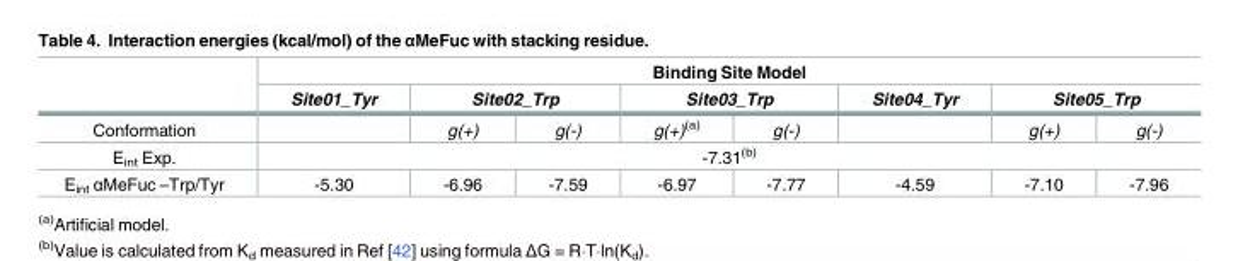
<table><thead><tr><td rowspan="3">Conformation</td><td colspan="8">Binding Site Model</td></tr><tr><td rowspan="2">Site01_Tyr</td><td colspan="2">Site02_Trp</td><td colspan="2">Site03_Trp</td><td rowspan="2">Site04_Tyr</td><td colspan="2">Site05_Trp</td></tr><tr><td>g(+)</td><td>g(-)</td><td>g(+)<sup>(a)</sup></td><td>g(-)</td><td>g(+)</td><td>g(-)</td></tr></thead><tbody><tr><td>E<sub>int</sub> Exp.</td><td colspan="8">-7.31<sup>(b)</sup></td></tr><tr><td>E<sub>int</sub> αMeFuc –Trp/Tyr</td><td>-5.30</td><td>-6.96</td><td>-7.59</td><td>-6.97</td><td>-7.77</td><td>-4.59</td><td>-7.10</td><td>-7.96</td></tr></tbody></table>